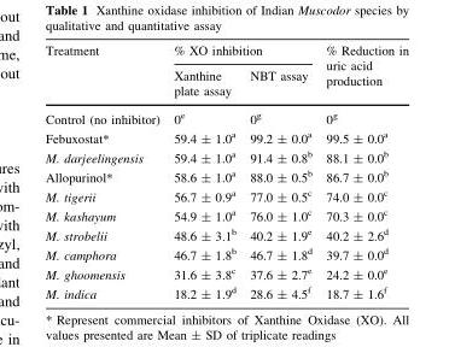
<table><thead><tr><td rowspan="2">Treatment</td><td colspan="2">% XO inhibition</td><td rowspan="2">% Reduction in uric acid production</td></tr><tr><td>Xanthine plate assay</td><td>NBT assay</td></tr></thead><tbody><tr><td>Control (no inhibitor)</td><td>0<sup>e</sup></td><td>0<sup>g</sup></td><td>0<sup>g</sup></td></tr><tr><td>Febuxostat*</td><td>59.4 ± 1.0<sup>a</sup></td><td>99.2 ± 0.0<sup>a</sup></td><td>99.5 ± 0.0<sup>a</sup></td></tr><tr><td>M. darjeelingensis</td><td>59.4 ± 1.0<sup>a</sup></td><td>91.4 ± 0.8<sup>b</sup></td><td>88.1 ± 0.0<sup>b</sup></td></tr><tr><td>Allopurinol*</td><td>58.6 ± 1.0<sup>a</sup></td><td>88.0 ± 0.5<sup>b</sup></td><td>86.7 ± 0.0<sup>b</sup></td></tr><tr><td>M. tigerii</td><td>56.7 ± 0.9<sup>a</sup></td><td>77.0 ± 0.5<sup>c</sup></td><td>74.0 ± 0.0<sup>c</sup></td></tr><tr><td>M. kashayum</td><td>54.9 ± 1.0<sup>a</sup></td><td>76.0 ± 1.0<sup>c</sup></td><td>70.3 ± 0.0<sup>c</sup></td></tr><tr><td>M. strobelii</td><td>48.6 ± 3.1<sup>b</sup></td><td>40.2 ± 1.9<sup>e</sup></td><td>40.2 ± 2.6<sup>d</sup></td></tr><tr><td>M. camphora</td><td>46.7 ± 1.8<sup>b</sup></td><td>46.7 ± 1.8<sup>d</sup></td><td>39.7 ± 0.0<sup>d</sup></td></tr><tr><td>M. ghoomensis</td><td>31.6 ± 3.8<sup>c</sup></td><td>37.6 ± 2.7<sup>e</sup></td><td>24.2 ± 0.0<sup>e</sup></td></tr><tr><td>M. indica</td><td>18.2 ± 1.9<sup>d</sup></td><td>28.6 ± 4.5<sup>f</sup></td><td>18.7 ± 1.6<sup>f</sup></td></tr></tbody></table>